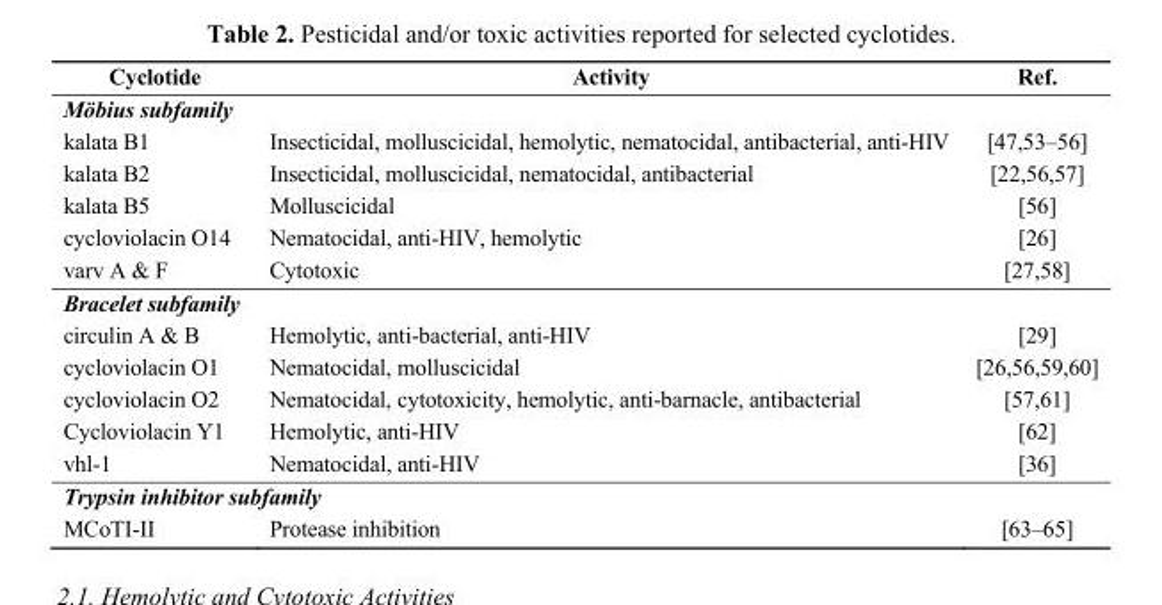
<table><thead><tr><td>Cyclotide</td><td>Activity</td><td>Ref.</td></tr></thead><tbody><tr><td colspan="3">Möbius subfamily</td></tr><tr><td>kalata B1</td><td>Insecticidal, molluscicidal, hemolytic, nematocidal, antibacterial, anti-HIV</td><td>[47,53–56]</td></tr><tr><td>kalata B2</td><td>Insecticidal, molluscicidal, nematocidal, antibacterial</td><td>[22,56,57]</td></tr><tr><td>kalata B5</td><td>Molluscicidal</td><td>[56]</td></tr><tr><td>cycloviolacin O14</td><td>Nematocidal, anti-HIV, hemolytic</td><td>[26]</td></tr><tr><td>varv A &amp; F</td><td>Cytotoxic</td><td>[27,58]</td></tr><tr><td colspan="3">Bracelet subfamily</td></tr><tr><td>circulin A &amp; B</td><td>Hemolytic, anti-bacterial, anti-HIV</td><td>[29]</td></tr><tr><td>cycloviolacin O1</td><td>Nematocidal, molluscicidal</td><td>[26,56,59,60]</td></tr><tr><td>cycloviolacin O2</td><td>Nematocidal, cytotoxicity, hemolytic, anti-barnacle, antibacterial</td><td>[57,61]</td></tr><tr><td>Cycloviolacin Y1</td><td>Hemolytic, anti-HIV</td><td>[62]</td></tr><tr><td>vhl-1</td><td>Nematocidal, anti-HIV</td><td>[36]</td></tr><tr><td colspan="3">Trypsin inhibitor subfamily</td></tr><tr><td>MCoTI-II</td><td>Protease inhibition</td><td>[63–65]</td></tr></tbody></table>